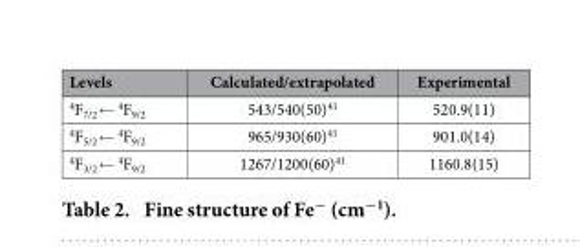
<table><thead><tr><td>Levels</td><td>Calculated/extrapolated</td><td>Experimental</td></tr></thead><tbody><tr><td><sup>4</sup>F<sub>7/2</sub> ← <sup>4</sup>F<sub>9/2</sub></td><td>543/540(50)<sup>41</sup></td><td>520.9(11)</td></tr><tr><td><sup>4</sup>F<sub>5/2</sub> ← <sup>4</sup>F<sub>9/2</sub></td><td>965/930(60)<sup>41</sup></td><td>901.0(14)</td></tr><tr><td><sup>4</sup>F<sub>3/2</sub> ← <sup>4</sup>F<sub>9/2</sub></td><td>1267/1200(60)<sup>41</sup></td><td>1160.8(15)</td></tr></tbody></table>